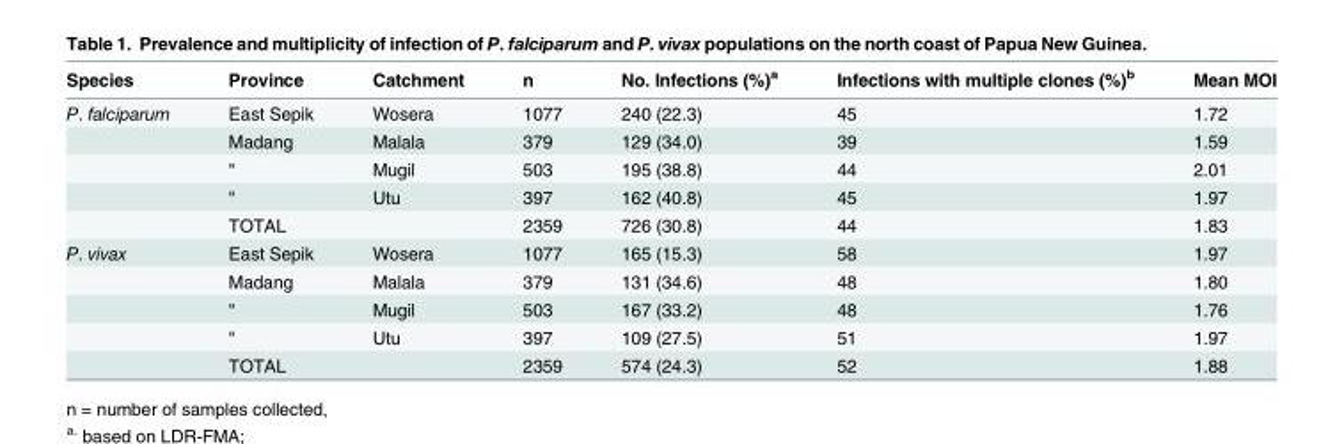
<table><thead><tr><td>Species</td><td>Province</td><td>Catchment</td><td>n</td><td>No. Infections (%)<sup>a</sup></td><td>Infections with multiple clones (%)<sup>b</sup></td><td>Mean MOI</td></tr></thead><tbody><tr><td rowspan="5">P. falciparum</td><td>East Sepik</td><td>Wosera</td><td>1077</td><td>240 (22.3)</td><td>45</td><td>1.72</td></tr><tr><td>Madang</td><td>Malala</td><td>379</td><td>129 (34.0)</td><td>39</td><td>1.59</td></tr><tr><td>&quot;</td><td>Mugil</td><td>503</td><td>195 (38.8)</td><td>44</td><td>2.01</td></tr><tr><td>&quot;</td><td>Utu</td><td>397</td><td>162 (40.8)</td><td>45</td><td>1.97</td></tr><tr><td>TOTAL</td><td></td><td>2359</td><td>726 (30.8)</td><td>44</td><td>1.83</td></tr><tr><td rowspan="5">P. vivax</td><td>East Sepik</td><td>Wosera</td><td>1077</td><td>165 (15.3)</td><td>58</td><td>1.97</td></tr><tr><td>Madang</td><td>Malala</td><td>379</td><td>131 (34.6)</td><td>48</td><td>1.80</td></tr><tr><td>&quot;</td><td>Mugil</td><td>503</td><td>167 (33.2)</td><td>48</td><td>1.76</td></tr><tr><td>&quot;</td><td>Utu</td><td>397</td><td>109 (27.5)</td><td>51</td><td>1.97</td></tr><tr><td>TOTAL</td><td></td><td>2359</td><td>574 (24.3)</td><td>52</td><td>1.88</td></tr></tbody></table>